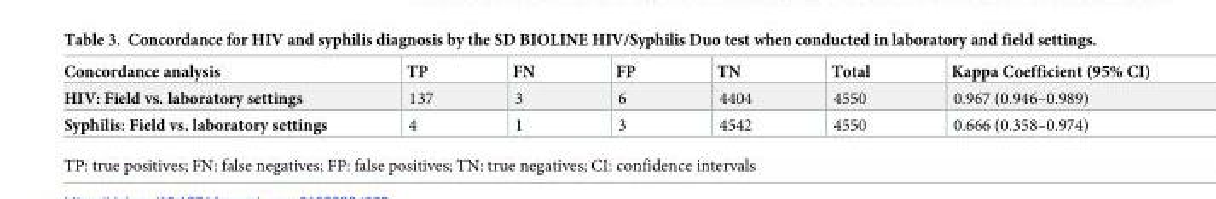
<table><thead><tr><td>Concordance analysis</td><td>TP</td><td>FN</td><td>FP</td><td>TN</td><td>Total</td><td>Kappa Coefficient (95% CI)</td></tr></thead><tbody><tr><td>HIV: Field vs. laboratory settings</td><td>137</td><td>3</td><td>6</td><td>4404</td><td>4550</td><td>0.967 (0.946–0.989)</td></tr><tr><td>Syphilis: Field vs. laboratory settings</td><td>4</td><td>1</td><td>3</td><td>4542</td><td>4550</td><td>0.666 (0.358–0.974)</td></tr></tbody></table>